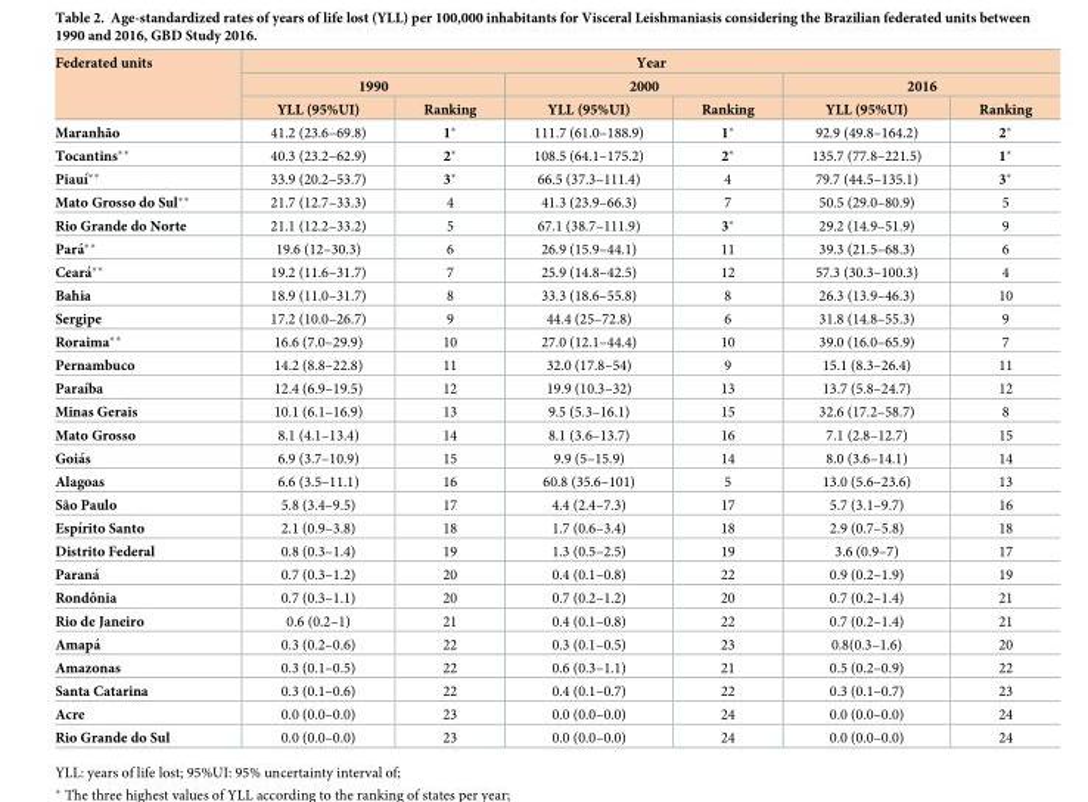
<table><thead><tr><td rowspan="3">Federated units</td><td colspan="6">Year</td></tr><tr><td colspan="2">1990</td><td colspan="2">2000</td><td colspan="2">2016</td></tr><tr><td>YLL (95%UI)</td><td>Ranking</td><td>YLL (95%UI)</td><td>Ranking</td><td>YLL (95%UI)</td><td>Ranking</td></tr></thead><tbody><tr><td>Maranhão</td><td>41.2 (23.6–69.8)</td><td>1*</td><td>111.7 (61.0–188.9)</td><td>1*</td><td>92.9 (49.8–164.2)</td><td>2*</td></tr><tr><td>Tocantins**</td><td>40.3 (23.2–62.9)</td><td>2*</td><td>108.5 (64.1–175.2)</td><td>2*</td><td>135.7 (77.8–221.5)</td><td>1*</td></tr><tr><td>Piauı´��</td><td>33.9 (20.2–53.7)</td><td>3*</td><td>66.5 (37.3–111.4)</td><td>4</td><td>79.7 (44.5–135.1)</td><td>3*</td></tr><tr><td>Mato Grosso do Sul**</td><td>21.7 (12.7–33.3)</td><td>4</td><td>41.3 (23.9–66.3)</td><td>7</td><td>50.5 (29.0–80.9)</td><td>5</td></tr><tr><td>Rio Grande do Norte</td><td>21.1 (12.2–33.2)</td><td>5</td><td>67.1 (38.7–111.9)</td><td>3*</td><td>29.2 (14.9–51.9)</td><td>9</td></tr><tr><td>Para´��</td><td>19.6 (12–30.3)</td><td>6</td><td>26.9 (15.9–44.1)</td><td>11</td><td>39.3 (21.5–68.3)</td><td>6</td></tr><tr><td>Ceara´��</td><td>19.2 (11.6–31.7)</td><td>7</td><td>25.9 (14.8–42.5)</td><td>12</td><td>57.3 (30.3–100.3)</td><td>4</td></tr><tr><td>Bahia</td><td>18.9 (11.0–31.7)</td><td>8</td><td>33.3 (18.6–55.8)</td><td>8</td><td>26.3 (13.9–46.3)</td><td>10</td></tr><tr><td>Sergipe</td><td>17.2 (10.0–26.7)</td><td>9</td><td>44.4 (25–72.8)</td><td>6</td><td>31.8 (14.8–55.3)</td><td>9</td></tr><tr><td>Roraima**</td><td>16.6 (7.0–29.9)</td><td>10</td><td>27.0 (12.1–44.4)</td><td>10</td><td>39.0 (16.0–65.9)</td><td>7</td></tr><tr><td>Pernambuco</td><td>14.2 (8.8–22.8)</td><td>11</td><td>32.0 (17.8–54)</td><td>9</td><td>15.1 (8.3–26.4)</td><td>11</td></tr><tr><td>Paraı´ba</td><td>12.4 (6.9–19.5)</td><td>12</td><td>19.9 (10.3–32)</td><td>13</td><td>13.7 (5.8–24.7)</td><td>12</td></tr><tr><td>Minas Gerais</td><td>10.1 (6.1–16.9)</td><td>13</td><td>9.5 (5.3–16.1)</td><td>15</td><td>32.6 (17.2–58.7)</td><td>8</td></tr><tr><td>Mato Grosso</td><td>8.1 (4.1–13.4)</td><td>14</td><td>8.1 (3.6–13.7)</td><td>16</td><td>7.1 (2.8–12.7)</td><td>15</td></tr><tr><td>Goia´s</td><td>6.9 (3.7–10.9)</td><td>15</td><td>9.9 (5–15.9)</td><td>14</td><td>8.0 (3.6–14.1)</td><td>14</td></tr><tr><td>Alagoas</td><td>6.6 (3.5–11.1)</td><td>16</td><td>60.8 (35.6–101)</td><td>5</td><td>13.0 (5.6–23.6)</td><td>13</td></tr><tr><td>São Paulo</td><td>5.8 (3.4–9.5)</td><td>17</td><td>4.4 (2.4–7.3)</td><td>17</td><td>5.7 (3.1–9.7)</td><td>16</td></tr><tr><td>Espı´rito Santo</td><td>2.1 (0.9–3.8)</td><td>18</td><td>1.7 (0.6–3.4)</td><td>18</td><td>2.9 (0.7–5.8)</td><td>18</td></tr><tr><td>Distrito Federal</td><td>0.8 (0.3–1.4)</td><td>19</td><td>1.3 (0.5–2.5)</td><td>19</td><td>3.6 (0.9–7)</td><td>17</td></tr><tr><td>Parana´</td><td>0.7 (0.3–1.2)</td><td>20</td><td>0.4 (0.1–0.8)</td><td>22</td><td>0.9 (0.2–1.9)</td><td>19</td></tr><tr><td>Rondoˆnia</td><td>0.7 (0.3–1.1)</td><td>20</td><td>0.7 (0.2–1.2)</td><td>20</td><td>0.7 (0.2–1.4)</td><td>21</td></tr><tr><td>Rio de Janeiro</td><td>0.6 (0.2–1)</td><td>21</td><td>0.4 (0.1–0.8)</td><td>22</td><td>0.7 (0.2–1.4)</td><td>21</td></tr><tr><td>Amapa´</td><td>0.3 (0.2–0.6)</td><td>22</td><td>0.3 (0.1–0.5)</td><td>23</td><td>0.8(0.3–1.6)</td><td>20</td></tr><tr><td>Amazonas</td><td>0.3 (0.1–0.5)</td><td>22</td><td>0.6 (0.3–1.1)</td><td>21</td><td>0.5 (0.2–0.9)</td><td>22</td></tr><tr><td>Santa Catarina</td><td>0.3 (0.1–0.6)</td><td>22</td><td>0.4 (0.1–0.7)</td><td>22</td><td>0.3 (0.1–0.7)</td><td>23</td></tr><tr><td>Acre</td><td>0.0 (0.0–0.0)</td><td>23</td><td>0.0 (0.0–0.0)</td><td>24</td><td>0.0 (0.0–0.0)</td><td>24</td></tr><tr><td>Rio Grande do Sul</td><td>0.0 (0.0–0.0)</td><td>23</td><td>0.0 (0.0–0.0)</td><td>24</td><td>0.0 (0.0–0.0)</td><td>24</td></tr></tbody></table>